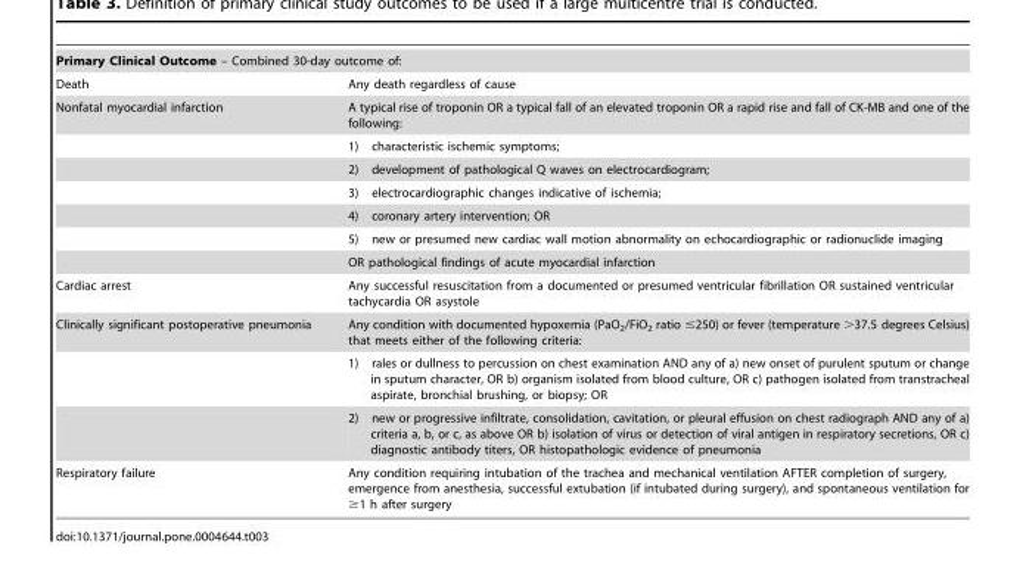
<table><tbody><tr><td colspan="2">Primary Clinical Outcome – Combined 30-day outcome of:</td></tr><tr><td>Death</td><td>Any death regardless of cause</td></tr><tr><td rowspan="7">Nonfatal myocardial infarction</td><td>A typical rise of troponin OR a typical fall of an elevated troponin OR a rapid rise and fall of CK-MB and one of the following:</td></tr><tr><td>1) characteristic ischemic symptoms;</td></tr><tr><td>2) development of pathological Q waves on electrocardiogram;</td></tr><tr><td>3) electrocardiographic changes indicative of ischemia;</td></tr><tr><td>4) coronary artery intervention; OR</td></tr><tr><td>5) new or presumed new cardiac wall motion abnormality on echocardiographic or radionuclide imaging</td></tr><tr><td>OR pathological findings of acute myocardial infarction</td></tr><tr><td>Cardiac arrest</td><td>Any successful resuscitation from a documented or presumed ventricular fibrillation OR sustained ventricular tachycardia OR asystole</td></tr><tr><td rowspan="3">Clinically significant postoperative pneumonia</td><td>Any condition with documented hypoxemia (PaO<sub>2</sub>/FiO<sub>2</sub> ratio ≤250) or fever (temperature &gt;37.5 degrees Celsius) that meets either of the following criteria:</td></tr><tr><td>1) rales or dullness to percussion on chest examination AND any of a) new onset of purulent sputum or change in sputum character, OR b) organism isolated from blood culture, OR c) pathogen isolated from transtracheal aspirate, bronchial brushing, or biopsy; OR</td></tr><tr><td>2) new or progressive infiltrate, consolidation, cavitation, or pleural effusion on chest radiograph AND any of a) criteria a, b, or c, as above OR b) isolation of virus or detection of viral antigen in respiratory secretions, OR c) diagnostic antibody titers, OR histopathologic evidence of pneumonia</td></tr><tr><td>Respiratory failure</td><td>Any condition requiring intubation of the trachea and mechanical ventilation AFTER completion of surgery, emergence from anesthesia, successful extubation (if intubated during surgery), and spontaneous ventilation for ≥1 h after surgery</td></tr></tbody></table>